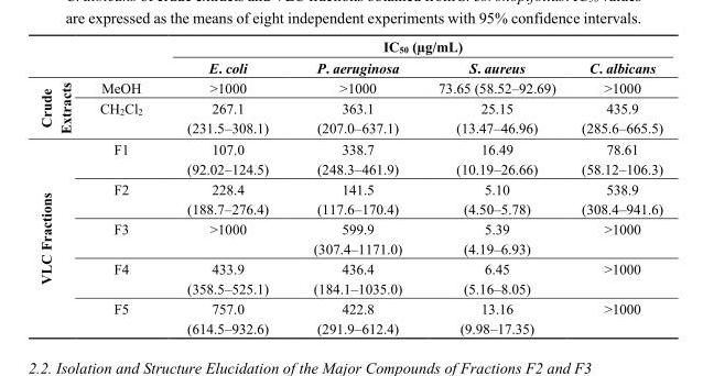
<table><thead><tr><td rowspan="2"></td><td rowspan="2"></td><td colspan="4">IC<sub>50</sub> (µg/mL)</td></tr><tr><td>E. coli</td><td>P. aeruginosa</td><td>S. aureus</td><td>C. albicans</td></tr></thead><tbody><tr><td rowspan="2">Crude Extracts</td><td>MeOH</td><td>&gt;1000</td><td>&gt;1000</td><td>73.65 (58.52–92.69)</td><td>&gt;1000</td></tr><tr><td>CH<sub>2</sub>Cl<sub>2</sub></td><td>267.1 (231.5–308.1)</td><td>363.1 (207.0–637.1)</td><td>25.15 (13.47–46.96)</td><td>435.9 (285.6–665.5)</td></tr><tr><td rowspan="5">VLC Fractions</td><td>F1</td><td>107.0 (92.02–124.5)</td><td>338.7 (248.3–461.9)</td><td>16.49 (10.19–26.66)</td><td>78.61 (58.12–106.3)</td></tr><tr><td>F2</td><td>228.4 (188.7–276.4)</td><td>141.5 (117.6–170.4)</td><td>5.10 (4.50–5.78)</td><td>538.9 (308.4–941.6)</td></tr><tr><td>F3</td><td>&gt;1000</td><td>599.9 (307.4–1171.0)</td><td>5.39 (4.19–6.93)</td><td>&gt;1000</td></tr><tr><td>F4</td><td>433.9 (358.5–525.1)</td><td>436.4 (184.1–1035.0)</td><td>6.45 (5.16–8.05)</td><td>&gt;1000</td></tr><tr><td>F5</td><td>757.0 (614.5–932.6)</td><td>422.8 (291.9–612.4)</td><td>13.16 (9.98–17.35)</td><td>&gt;1000</td></tr></tbody></table>